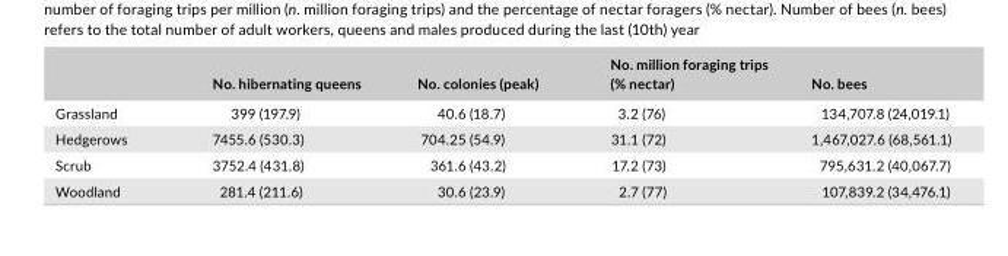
<table><thead><tr><td></td><td>No. hibernating queens</td><td>No. colonies (peak)</td><td>No. million foraging trips (% nectar)</td><td>No. bees</td></tr></thead><tbody><tr><td>Grassland</td><td>399 (197.9)</td><td>40.6 (18.7)</td><td>3.2 (76)</td><td>134,707.8 (24,019.1)</td></tr><tr><td>Hedgerows</td><td>7455.6 (530.3)</td><td>704.25 (54.9)</td><td>31.1 (72)</td><td>1,467,027.6 (68,561.1)</td></tr><tr><td>Scrub</td><td>3752.4 (431.8)</td><td>361.6 (43.2)</td><td>17.2 (73)</td><td>795,631.2 (40,067.7)</td></tr><tr><td>Woodland</td><td>281.4 (211.6)</td><td>30.6 (23.9)</td><td>2.7 (77)</td><td>107,839.2 (34,476.1)</td></tr></tbody></table>